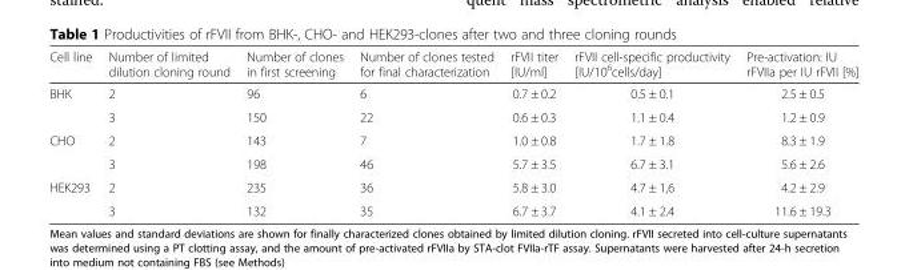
<table><thead><tr><td>Cell line</td><td>Number of limited dilution cloning round</td><td>Number of clones in first screening</td><td>Number of clones tested for final characterization</td><td>rFVII titer [IU/ml]</td><td>rFVII cell-specific productivity [IU/10<sup>6</sup>cells/day]</td><td>Pre-activation: IU rFVIIa per IU rFVII [%]</td></tr></thead><tbody><tr><td rowspan="2">BHK</td><td>2</td><td>96</td><td>6</td><td>0.7 ± 0.2</td><td>0.5 ± 0.1</td><td>2.5 ± 0.5</td></tr><tr><td>3</td><td>150</td><td>22</td><td>0.6 ± 0.3</td><td>1.1 ± 0.4</td><td>1.2 ± 0.9</td></tr><tr><td rowspan="2">CHO</td><td>2</td><td>143</td><td>7</td><td>1.0 ± 0.8</td><td>1.7 ± 1.8</td><td>8.3 ± 1.9</td></tr><tr><td>3</td><td>198</td><td>46</td><td>5.7 ± 3.5</td><td>6.7 ± 3.1</td><td>5.6 ± 2.6</td></tr><tr><td rowspan="2">HEK293</td><td>2</td><td>235</td><td>36</td><td>5.8 ± 3.0</td><td>4.7 ± 1,6</td><td>4.2 ± 2.9</td></tr><tr><td>3</td><td>132</td><td>35</td><td>6.7 ± 3.7</td><td>4.1 ± 2.4</td><td>11.6 ± 19.3</td></tr></tbody></table>